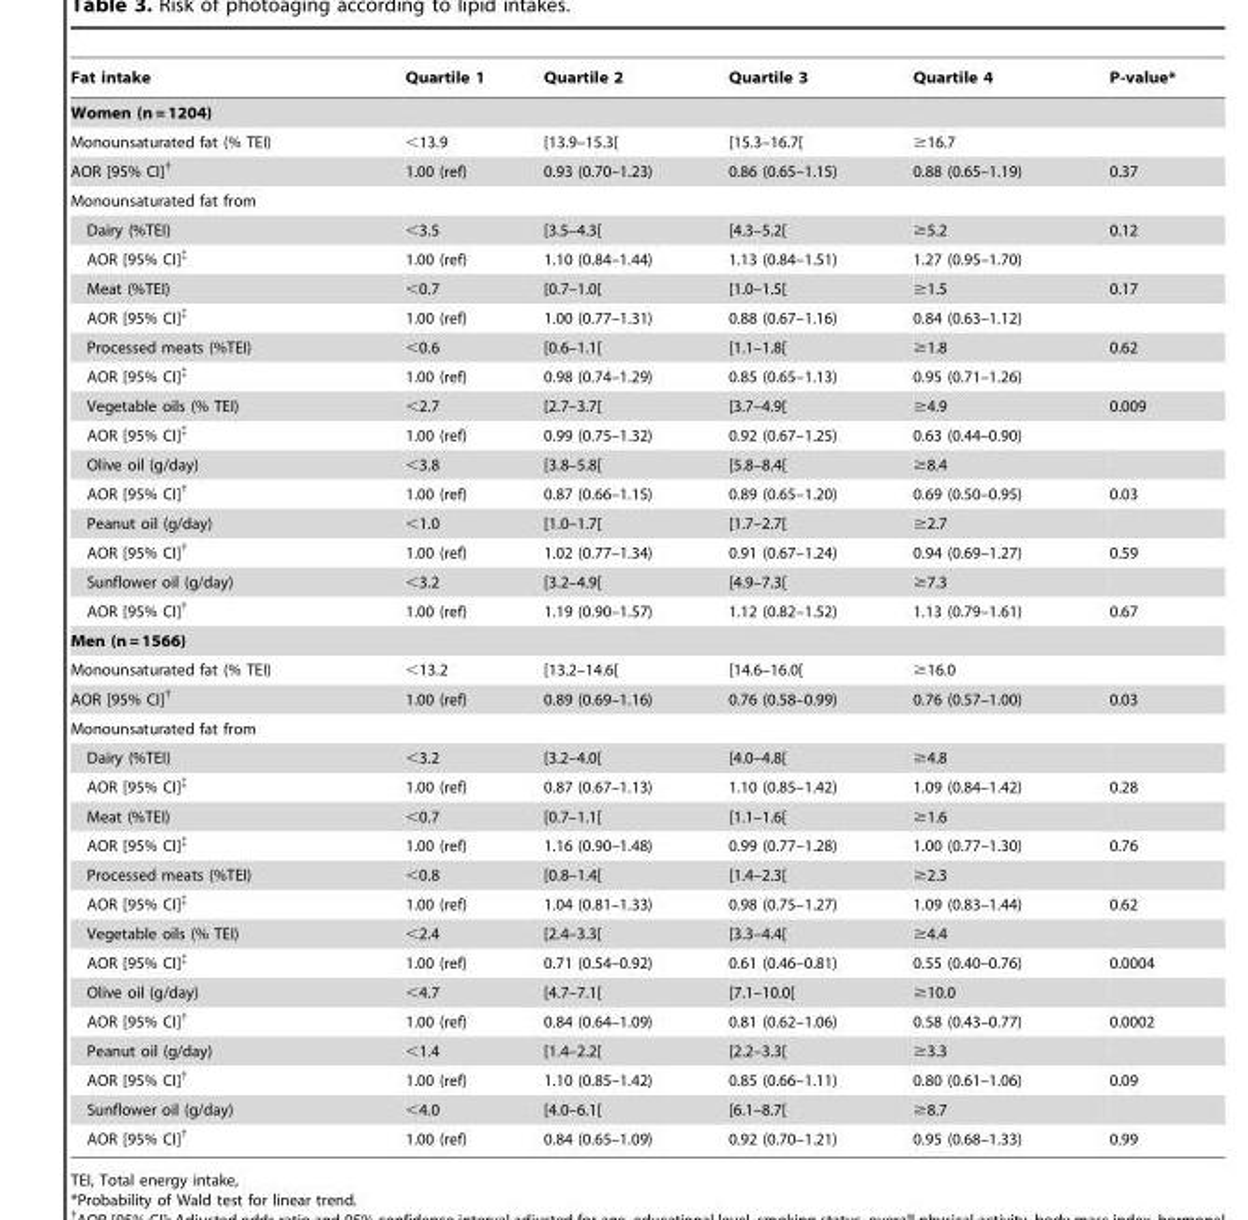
<table><thead><tr><td>Fat intake</td><td>Quartile 1</td><td>Quartile 2</td><td>Quartile 3</td><td>Quartile 4</td><td>P-value*</td></tr></thead><tbody><tr><td colspan="6">Women (n = 1204)</td></tr><tr><td>Monounsaturated fat (% TEI)</td><td>&lt;13.9</td><td>[13.9–15.3[</td><td>[15.3–16.7[</td><td>≥16.7</td><td></td></tr><tr><td>AOR [95% CI]†</td><td>1.00 (ref)</td><td>0.93 (0.70–1.23)</td><td>0.86 (0.65–1.15)</td><td>0.88 (0.65–1.19)</td><td>0.37</td></tr><tr><td colspan="6">Monounsaturated fat from</td></tr><tr><td>Dairy (%TEI)</td><td>&lt;3.5</td><td>[3.5–4.3[</td><td>[4.3–5.2[</td><td>≥5.2</td><td>0.12</td></tr><tr><td>AOR [95% CI]‡</td><td>1.00 (ref)</td><td>1.10 (0.84–1.44)</td><td>1.13 (0.84–1.51)</td><td>1.27 (0.95–1.70)</td><td></td></tr><tr><td>Meat (%TEI)</td><td>&lt;0.7</td><td>[0.7–1.0[</td><td>[1.0–1.5[</td><td>≥1.5</td><td>0.17</td></tr><tr><td>AOR [95% CI]‡</td><td>1.00 (ref)</td><td>1.00 (0.77–1.31)</td><td>0.88 (0.67–1.16)</td><td>0.84 (0.63–1.12)</td><td></td></tr><tr><td>Processed meats (%TEI)</td><td>&lt;0.6</td><td>[0.6–1.1[</td><td>[1.1–1.8[</td><td>≥1.8</td><td>0.62</td></tr><tr><td>AOR [95% CI]‡</td><td>1.00 (ref)</td><td>0.98 (0.74–1.29)</td><td>0.85 (0.65–1.13)</td><td>0.95 (0.71–1.26)</td><td></td></tr><tr><td>Vegetable oils (% TEI)</td><td>&lt;2.7</td><td>[2.7–3.7[</td><td>[3.7–4.9[</td><td>≥4.9</td><td>0.009</td></tr><tr><td>AOR [95% CI]‡</td><td>1.00 (ref)</td><td>0.99 (0.75–1.32)</td><td>0.92 (0.67–1.25)</td><td>0.63 (0.44–0.90)</td><td></td></tr><tr><td>Olive oil (g/day)</td><td>&lt;3.8</td><td>[3.8–5.8[</td><td>[5.8–8.4[</td><td>≥8.4</td><td></td></tr><tr><td>AOR [95% CI]†</td><td>1.00 (ref)</td><td>0.87 (0.66–1.15)</td><td>0.89 (0.65–1.20)</td><td>0.69 (0.50–0.95)</td><td>0.03</td></tr><tr><td>Peanut oil (g/day)</td><td>&lt;1.0</td><td>[1.0–1.7[</td><td>[1.7–2.7[</td><td>≥2.7</td><td></td></tr><tr><td>AOR [95% CI]†</td><td>1.00 (ref)</td><td>1.02 (0.77–1.34)</td><td>0.91 (0.67–1.24)</td><td>0.94 (0.69–1.27)</td><td>0.59</td></tr><tr><td>Sunflower oil (g/day)</td><td>&lt;3.2</td><td>[3.2–4.9[</td><td>[4.9–7.3[</td><td>≥7.3</td><td></td></tr><tr><td>AOR [95% CI]†</td><td>1.00 (ref)</td><td>1.19 (0.90–1.57)</td><td>1.12 (0.82–1.52)</td><td>1.13 (0.79–1.61)</td><td>0.67</td></tr><tr><td colspan="6">Men (n = 1566)</td></tr><tr><td>Monounsaturated fat (% TEI)</td><td>&lt;13.2</td><td>[13.2–14.6[</td><td>[14.6–16.0[</td><td>≥16.0</td><td></td></tr><tr><td>AOR [95% CI]†</td><td>1.00 (ref)</td><td>0.89 (0.69–1.16)</td><td>0.76 (0.58–0.99)</td><td>0.76 (0.57–1.00)</td><td>0.03</td></tr><tr><td colspan="6">Monounsaturated fat from</td></tr><tr><td>Dairy (%TEI)</td><td>&lt;3.2</td><td>[3.2–4.0[</td><td>[4.0–4.8[</td><td>≥4.8</td><td></td></tr><tr><td>AOR [95% CI]‡</td><td>1.00 (ref)</td><td>0.87 (0.67–1.13)</td><td>1.10 (0.85–1.42)</td><td>1.09 (0.84–1.42)</td><td>0.28</td></tr><tr><td>Meat (%TEI)</td><td>&lt;0.7</td><td>[0.7–1.1[</td><td>[1.1–1.6[</td><td>≥1.6</td><td></td></tr><tr><td>AOR [95% CI]‡</td><td>1.00 (ref)</td><td>1.16 (0.90–1.48)</td><td>0.99 (0.77–1.28)</td><td>1.00 (0.77–1.30)</td><td>0.76</td></tr><tr><td>Processed meats (%TEI)</td><td>&lt;0.8</td><td>[0.8–1.4[</td><td>[1.4–2.3[</td><td>≥2.3</td><td></td></tr><tr><td>AOR [95% CI]‡</td><td>1.00 (ref)</td><td>1.04 (0.81–1.33)</td><td>0.98 (0.75–1.27)</td><td>1.09 (0.83–1.44)</td><td>0.62</td></tr><tr><td>Vegetable oils (% TEI)</td><td>&lt;2.4</td><td>[2.4–3.3[</td><td>[3.3–4.4[</td><td>≥4.4</td><td></td></tr><tr><td>AOR [95% CI]‡</td><td>1.00 (ref)</td><td>0.71 (0.54–0.92)</td><td>0.61 (0.46–0.81)</td><td>0.55 (0.40–0.76)</td><td>0.0004</td></tr><tr><td>Olive oil (g/day)</td><td>&lt;4.7</td><td>[4.7–7.1[</td><td>[7.1–10.0[</td><td>≥10.0</td><td></td></tr><tr><td>AOR [95% CI]†</td><td>1.00 (ref)</td><td>0.84 (0.64–1.09)</td><td>0.81 (0.62–1.06)</td><td>0.58 (0.43–0.77)</td><td>0.0002</td></tr><tr><td>Peanut oil (g/day)</td><td>&lt;1.4</td><td>[1.4–2.2[</td><td>[2.2–3.3[</td><td>≥3.3</td><td></td></tr><tr><td>AOR [95% CI]†</td><td>1.00 (ref)</td><td>1.10 (0.85–1.42)</td><td>0.85 (0.66–1.11)</td><td>0.80 (0.61–1.06)</td><td>0.09</td></tr><tr><td>Sunflower oil (g/day)</td><td>&lt;4.0</td><td>[4.0–6.1[</td><td>[6.1–8.7[</td><td>≥8.7</td><td></td></tr><tr><td>AOR [95% CI]†</td><td>1.00 (ref)</td><td>0.84 (0.65–1.09)</td><td>0.92 (0.70–1.21)</td><td>0.95 (0.68–1.33)</td><td>0.99</td></tr></tbody></table>